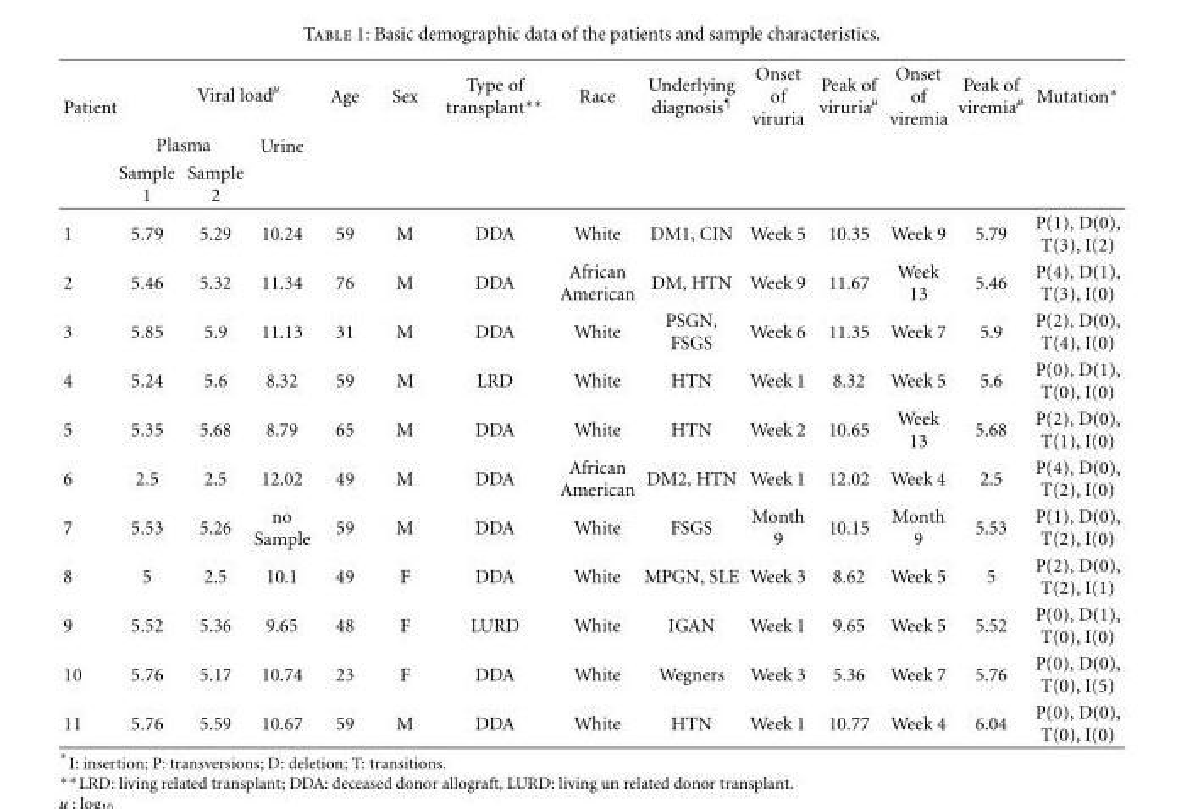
<table><thead><tr><td rowspan="3">Patient</td><td colspan="3">Viral load<sup>µ</sup></td><td rowspan="3">Age</td><td rowspan="3">Sex</td><td rowspan="3">Type of transplant∗∗</td><td rowspan="3">Race</td><td rowspan="3">Underlying diagnosis<sup>¶</sup></td><td rowspan="3">Onset of viruria</td><td rowspan="3">Peak of viruria<sup>µ</sup></td><td rowspan="3">Onset of viremia</td><td rowspan="3">Peak of viremia<sup>µ</sup></td><td rowspan="3">Mutation∗</td></tr><tr><td colspan="2">Plasma</td><td rowspan="2">Urine</td></tr><tr><td>Sample 1</td><td>Sample 2</td></tr></thead><tbody><tr><td>1</td><td>5.79</td><td>5.29</td><td>10.24</td><td>59</td><td>M</td><td>DDA</td><td>White</td><td>DM1, CIN</td><td>Week 5</td><td>10.35</td><td>Week 9</td><td>5.79</td><td>P(1), D(0), T(3), I(2)</td></tr><tr><td>2</td><td>5.46</td><td>5.32</td><td>11.34</td><td>76</td><td>M</td><td>DDA</td><td>African American</td><td>DM, HTN</td><td>Week 9</td><td>11.67</td><td>Week 13</td><td>5.46</td><td>P(4), D(1), T(3), I(0)</td></tr><tr><td>3</td><td>5.85</td><td>5.9</td><td>11.13</td><td>31</td><td>M</td><td>DDA</td><td>White</td><td>PSGN, FSGS</td><td>Week 6</td><td>11.35</td><td>Week 7</td><td>5.9</td><td>P(2), D(0), T(4), I(0)</td></tr><tr><td>4</td><td>5.24</td><td>5.6</td><td>8.32</td><td>59</td><td>M</td><td>LRD</td><td>White</td><td>HTN</td><td>Week 1</td><td>8.32</td><td>Week 5</td><td>5.6</td><td>P(0), D(1), T(0), I(0)</td></tr><tr><td>5</td><td>5.35</td><td>5.68</td><td>8.79</td><td>65</td><td>M</td><td>DDA</td><td>White</td><td>HTN</td><td>Week 2</td><td>10.65</td><td>Week 13</td><td>5.68</td><td>P(2), D(0), T(1), I(0)</td></tr><tr><td>6</td><td>2.5</td><td>2.5</td><td>12.02</td><td>49</td><td>M</td><td>DDA</td><td>African American</td><td>DM2, HTN</td><td>Week 1</td><td>12.02</td><td>Week 4</td><td>2.5</td><td>P(4), D(0), T(2), I(0)</td></tr><tr><td>7</td><td>5.53</td><td>5.26</td><td>no Sample</td><td>59</td><td>M</td><td>DDA</td><td>White</td><td>FSGS</td><td>Month 9</td><td>10.15</td><td>Month 9</td><td>5.53</td><td>P(1), D(0), T(2), I(0)</td></tr><tr><td>8</td><td>5</td><td>2.5</td><td>10.1</td><td>49</td><td>F</td><td>DDA</td><td>White</td><td>MPGN, SLE</td><td>Week 3</td><td>8.62</td><td>Week 5</td><td>5</td><td>P(2), D(0), T(2), I(1)</td></tr><tr><td>9</td><td>5.52</td><td>5.36</td><td>9.65</td><td>48</td><td>F</td><td>LURD</td><td>White</td><td>IGAN</td><td>Week 1</td><td>9.65</td><td>Week 5</td><td>5.52</td><td>P(0), D(1), T(0), I(0)</td></tr><tr><td>10</td><td>5.76</td><td>5.17</td><td>10.74</td><td>23</td><td>F</td><td>DDA</td><td>White</td><td>Wegners</td><td>Week 3</td><td>5.36</td><td>Week 7</td><td>5.76</td><td>P(0), D(0), T(0), I(5)</td></tr><tr><td>11</td><td>5.76</td><td>5.59</td><td>10.67</td><td>59</td><td>M</td><td>DDA</td><td>White</td><td>HTN</td><td>Week 1</td><td>10.77</td><td>Week 4</td><td>6.04</td><td>P(0), D(0), T(0), I(0)</td></tr></tbody></table>